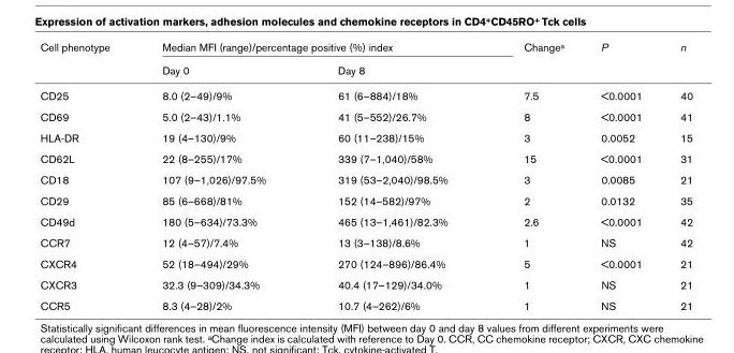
<table><thead><tr><td rowspan="2">Cell phenotype</td><td colspan="2">Median MFI (range)/percentage positive (%) index</td><td rowspan="2">Change<sup>a</sup></td><td rowspan="2">P</td><td rowspan="2">n</td></tr><tr><td>Day 0</td><td>Day 8</td></tr></thead><tbody><tr><td>CD25</td><td>8.0 (2–49)/9%</td><td>61 (6–884)/18%</td><td>7.5</td><td>&lt;0.0001</td><td>40</td></tr><tr><td>CD69</td><td>5.0 (2–43)/1.1%</td><td>41 (5–552)/26.7%</td><td>8</td><td>&lt;0.0001</td><td>41</td></tr><tr><td>HLA-DR</td><td>19 (4–130)/9%</td><td>60 (11–238)/15%</td><td>3</td><td>0.0052</td><td>15</td></tr><tr><td>CD62L</td><td>22 (8–255)/17%</td><td>339 (7–1,040)/58%</td><td>15</td><td>&lt;0.0001</td><td>31</td></tr><tr><td>CD18</td><td>107 (9–1,026)/97.5%</td><td>319 (53–2,040)/98.5%</td><td>3</td><td>0.0085</td><td>21</td></tr><tr><td>CD29</td><td>85 (6–668)/81%</td><td>152 (14–582)/97%</td><td>2</td><td>0.0132</td><td>35</td></tr><tr><td>CD49d</td><td>180 (5–634)/73.3%</td><td>465 (13–1,461)/82.3%</td><td>2.6</td><td>&lt;0.0001</td><td>42</td></tr><tr><td>CCR7</td><td>12 (4–57)/7.4%</td><td>13 (3–138)/8.6%</td><td>1</td><td>NS</td><td>42</td></tr><tr><td>CXCR4</td><td>52 (18–494)/29%</td><td>270 (124–896)/86.4%</td><td>5</td><td>&lt;0.0001</td><td>21</td></tr><tr><td>CXCR3</td><td>32.3 (9–309)/34.3%</td><td>40.4 (17–129)/34.0%</td><td>1</td><td>NS</td><td>21</td></tr><tr><td>CCR5</td><td>8.3 (4–28)/2%</td><td>10.7 (4–262)/6%</td><td>1</td><td>NS</td><td>21</td></tr></tbody></table>